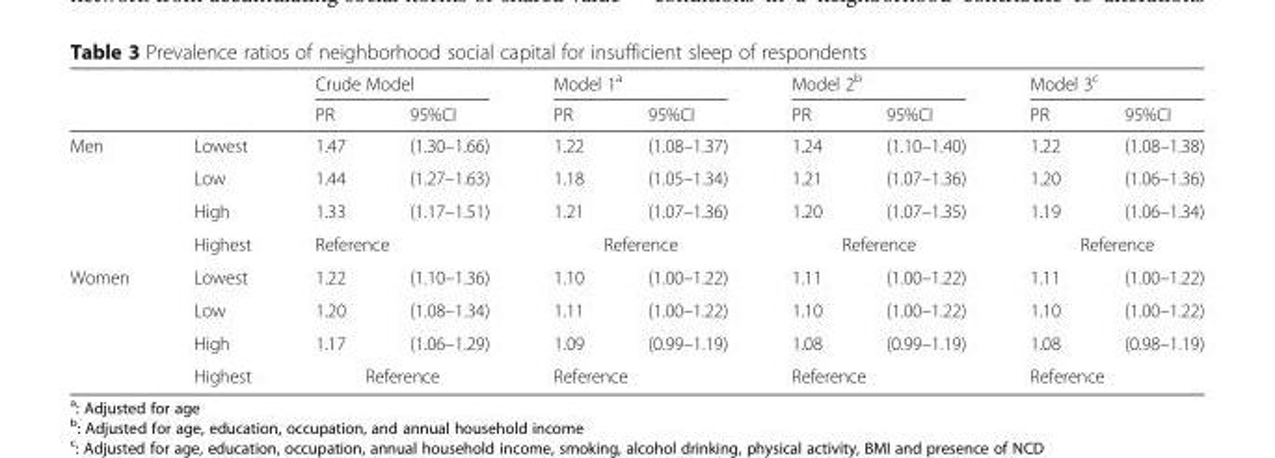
<table><thead><tr><td rowspan="2"></td><td rowspan="2"></td><td colspan="2">Crude Model</td><td colspan="2">Model 1<sup>a</sup></td><td colspan="2">Model 2<sup>b</sup></td><td colspan="2">Model 3<sup>c</sup></td></tr><tr><td>PR</td><td>95%CI</td><td>PR</td><td>95%CI</td><td>PR</td><td>95%CI</td><td>PR</td><td>95%CI</td></tr></thead><tbody><tr><td rowspan="4">Men</td><td>Lowest</td><td>1.47</td><td>(1.30–1.66)</td><td>1.22</td><td>(1.08–1.37)</td><td>1.24</td><td>(1.10–1.40)</td><td>1.22</td><td>(1.08–1.38)</td></tr><tr><td>Low</td><td>1.44</td><td>(1.27–1.63)</td><td>1.18</td><td>(1.05–1.34)</td><td>1.21</td><td>(1.07–1.36)</td><td>1.20</td><td>(1.06–1.36)</td></tr><tr><td>High</td><td>1.33</td><td>(1.17–1.51)</td><td>1.21</td><td>(1.07–1.36)</td><td>1.20</td><td>(1.07–1.35)</td><td>1.19</td><td>(1.06–1.34)</td></tr><tr><td>Highest</td><td colspan="2">Reference</td><td colspan="2">Reference</td><td colspan="2">Reference</td><td colspan="2">Reference</td></tr><tr><td rowspan="4">Women</td><td>Lowest</td><td>1.22</td><td>(1.10–1.36)</td><td>1.10</td><td>(1.00–1.22)</td><td>1.11</td><td>(1.00–1.22)</td><td>1.11</td><td>(1.00–1.22)</td></tr><tr><td>Low</td><td>1.20</td><td>(1.08–1.34)</td><td>1.11</td><td>(1.00–1.22)</td><td>1.10</td><td>(1.00–1.22)</td><td>1.10</td><td>(1.00–1.22)</td></tr><tr><td>High</td><td>1.17</td><td>(1.06–1.29)</td><td>1.09</td><td>(0.99–1.19)</td><td>1.08</td><td>(0.99–1.19)</td><td>1.08</td><td>(0.98–1.19)</td></tr><tr><td>Highest</td><td colspan="2">Reference</td><td colspan="2">Reference</td><td colspan="2">Reference</td><td colspan="2">Reference</td></tr></tbody></table>